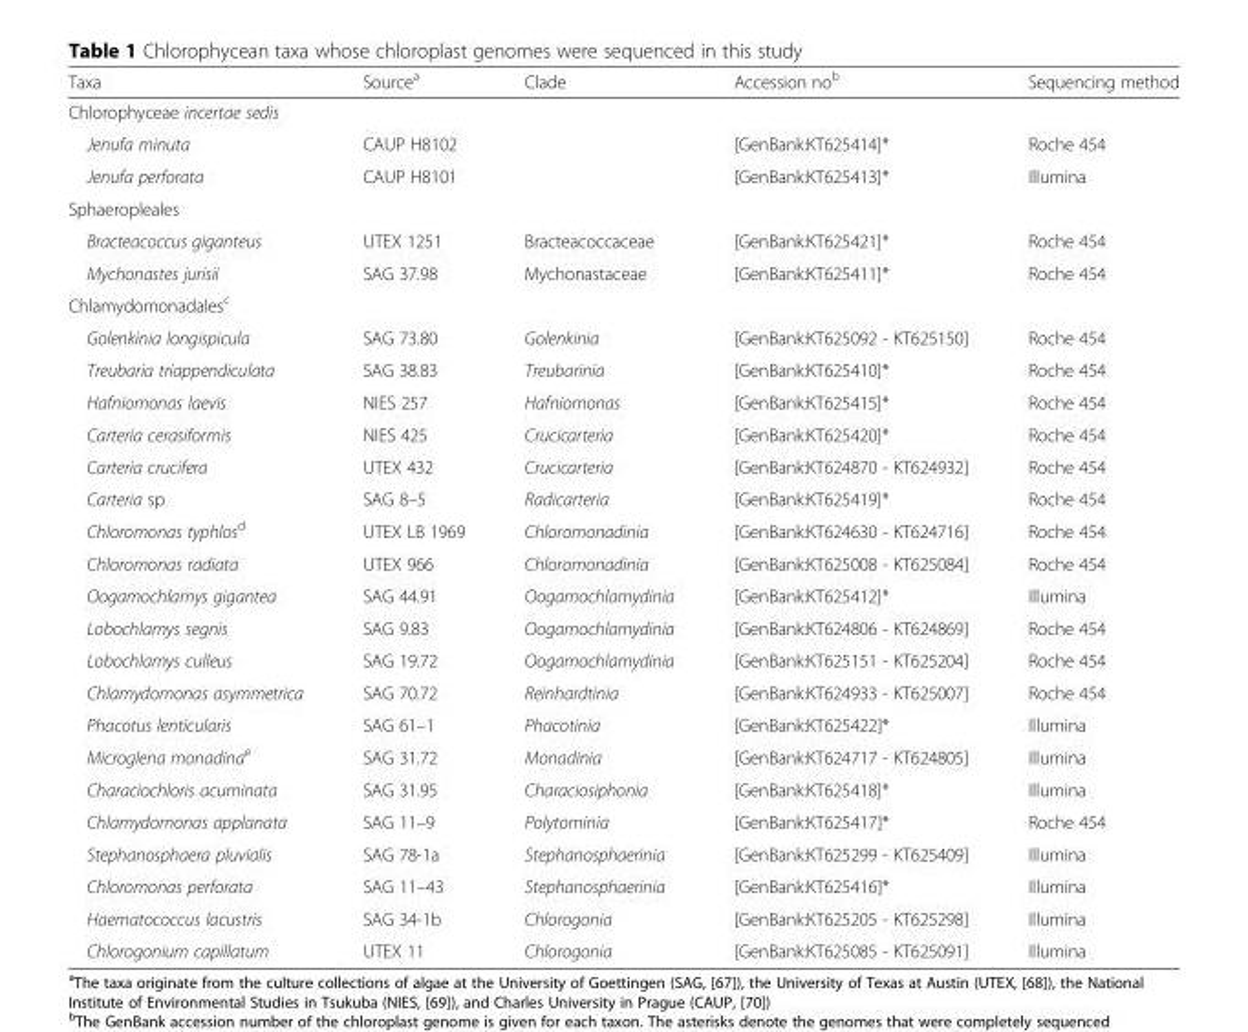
<table><thead><tr><td>Taxa</td><td>Source<sup>a</sup></td><td>Clade</td><td>Accession no<sup>b</sup></td><td>Sequencing method</td></tr></thead><tbody><tr><td colspan="5">Chlorophyceae incertae sedis</td></tr><tr><td>Jenufa minuta</td><td>CAUP H8102</td><td></td><td>[GenBank:KT625414]*</td><td>Roche 454</td></tr><tr><td>Jenufa perforata</td><td>CAUP H8101</td><td></td><td>[GenBank:KT625413]*</td><td>Illumina</td></tr><tr><td colspan="5">Sphaeropleales</td></tr><tr><td>Bracteacoccus giganteus</td><td>UTEX 1251</td><td>Bracteacoccaceae</td><td>[GenBank:KT625421]*</td><td>Roche 454</td></tr><tr><td>Mychonastes jurisii</td><td>SAG 37.98</td><td>Mychonastaceae</td><td>[GenBank:KT625411]*</td><td>Roche 454</td></tr><tr><td colspan="5">Chlamydomonadales<sup>c</sup></td></tr><tr><td>Golenkinia longispicula</td><td>SAG 73.80</td><td>Golenkinia</td><td>[GenBank:KT625092 - KT625150]</td><td>Roche 454</td></tr><tr><td>Treubaria triappendiculata</td><td>SAG 38.83</td><td>Treubarinia</td><td>[GenBank:KT625410]*</td><td>Roche 454</td></tr><tr><td>Hafniomonas laevis</td><td>NIES 257</td><td>Hafniomonas</td><td>[GenBank:KT625415]*</td><td>Roche 454</td></tr><tr><td>Carteria cerasiformis</td><td>NIES 425</td><td>Crucicarteria</td><td>[GenBank:KT625420]*</td><td>Roche 454</td></tr><tr><td>Carteria crucifera</td><td>UTEX 432</td><td>Crucicarteria</td><td>[GenBank:KT624870 - KT624932]</td><td>Roche 454</td></tr><tr><td>Carteria sp</td><td>SAG 8–5</td><td>Radicarteria</td><td>[GenBank:KT625419]*</td><td>Roche 454</td></tr><tr><td>Chloromonas typhlos<sup>d</sup></td><td>UTEX LB 1969</td><td>Chloromonadinia</td><td>[GenBank:KT624630 - KT624716]</td><td>Roche 454</td></tr><tr><td>Chloromonas radiata</td><td>UTEX 966</td><td>Chloromonadinia</td><td>[GenBank:KT625008 - KT625084]</td><td>Roche 454</td></tr><tr><td>Oogamochlamys gigantea</td><td>SAG 44.91</td><td>Oogamochlamydinia</td><td>[GenBank:KT625412]*</td><td>Illumina</td></tr><tr><td>Lobochlamys segnis</td><td>SAG 9.83</td><td>Oogamochlamydinia</td><td>[GenBank:KT624806 - KT624869]</td><td>Roche 454</td></tr><tr><td>Lobochlamys culleus</td><td>SAG 19.72</td><td>Oogamochlamydinia</td><td>[GenBank:KT625151 - KT625204]</td><td>Roche 454</td></tr><tr><td>Chlamydomonas asymmetrica</td><td>SAG 70.72</td><td>Reinhardtinia</td><td>[GenBank:KT624933 - KT625007]</td><td>Roche 454</td></tr><tr><td>Phacotus lenticularis</td><td>SAG 61–1</td><td>Phacotinia</td><td>[GenBank:KT625422]*</td><td>Illumina</td></tr><tr><td>Microglena monadina<sup>e</sup></td><td>SAG 31.72</td><td>Monadinia</td><td>[GenBank:KT624717 - KT624805]</td><td>Illumina</td></tr><tr><td>Characiochloris acuminata</td><td>SAG 31.95</td><td>Characiosiphonia</td><td>[GenBank:KT625418]*</td><td>Illumina</td></tr><tr><td>Chlamydomonas applanata</td><td>SAG 11–9</td><td>Polytominia</td><td>[GenBank:KT625417]*</td><td>Roche 454</td></tr><tr><td>Stephanosphaera pluvialis</td><td>SAG 78-1a</td><td>Stephanosphaerinia</td><td>[GenBank:KT625299 - KT625409]</td><td>Illumina</td></tr><tr><td>Chloromonas perforata</td><td>SAG 11–43</td><td>Stephanosphaerinia</td><td>[GenBank:KT625416]*</td><td>Illumina</td></tr><tr><td>Haematococcus lacustris</td><td>SAG 34-1b</td><td>Chlorogonia</td><td>[GenBank:KT625205 - KT625298]</td><td>Illumina</td></tr><tr><td>Chlorogonium capillatum</td><td>UTEX 11</td><td>Chlorogonia</td><td>[GenBank:KT625085 - KT625091]</td><td>Illumina</td></tr></tbody></table>